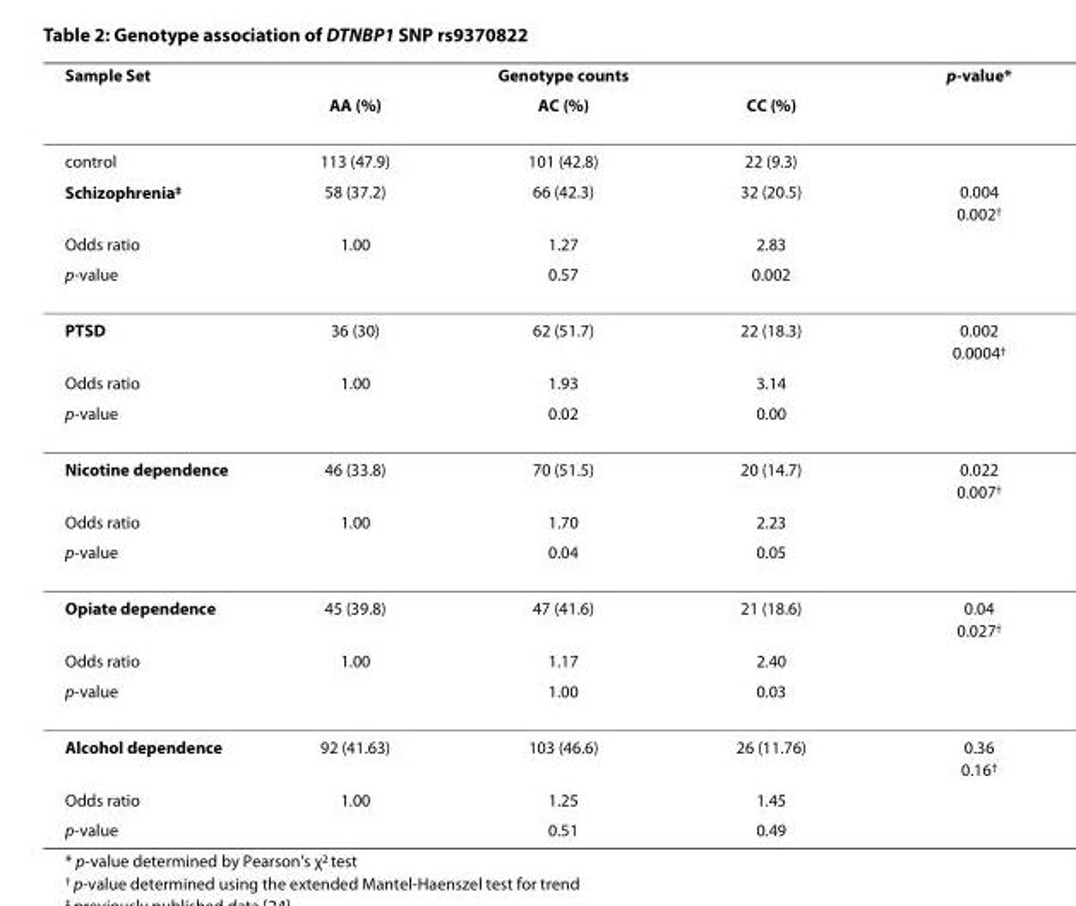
<table><thead><tr><td rowspan="2">Sample Set</td><td colspan="3">Genotype counts</td><td rowspan="2">p-value*</td></tr><tr><td>AA (%)</td><td>AC (%)</td><td>CC (%)</td></tr></thead><tbody><tr><td>control</td><td>113 (47.9)</td><td>101 (42.8)</td><td>22 (9.3)</td><td></td></tr><tr><td>Schizophrenia<sup>‡</sup></td><td>58 (37.2)</td><td>66 (42.3)</td><td>32 (20.5)</td><td>0.004 0.002<sup>†</sup></td></tr><tr><td>Odds ratio</td><td>1.00</td><td>1.27</td><td>2.83</td><td></td></tr><tr><td>p-value</td><td></td><td>0.57</td><td>0.002</td><td></td></tr><tr><td>PTSD</td><td>36 (30)</td><td>62 (51.7)</td><td>22 (18.3)</td><td>0.002 0.0004<sup>†</sup></td></tr><tr><td>Odds ratio</td><td>1.00</td><td>1.93</td><td>3.14</td><td></td></tr><tr><td>p-value</td><td></td><td>0.02</td><td>0.00</td><td></td></tr><tr><td>Nicotine dependence</td><td>46 (33.8)</td><td>70 (51.5)</td><td>20 (14.7)</td><td>0.022 0.007<sup>†</sup></td></tr><tr><td>Odds ratio</td><td>1.00</td><td>1.70</td><td>2.23</td><td></td></tr><tr><td>p-value</td><td></td><td>0.04</td><td>0.05</td><td></td></tr><tr><td>Opiate dependence</td><td>45 (39.8)</td><td>47 (41.6)</td><td>21 (18.6)</td><td>0.04 0.027<sup>†</sup></td></tr><tr><td>Odds ratio</td><td>1.00</td><td>1.17</td><td>2.40</td><td></td></tr><tr><td>p-value</td><td></td><td>1.00</td><td>0.03</td><td></td></tr><tr><td>Alcohol dependence</td><td>92 (41.63)</td><td>103 (46.6)</td><td>26 (11.76)</td><td>0.36 0.16<sup>†</sup></td></tr><tr><td>Odds ratio</td><td>1.00</td><td>1.25</td><td>1.45</td><td></td></tr><tr><td>p-value</td><td></td><td>0.51</td><td>0.49</td><td></td></tr></tbody></table>